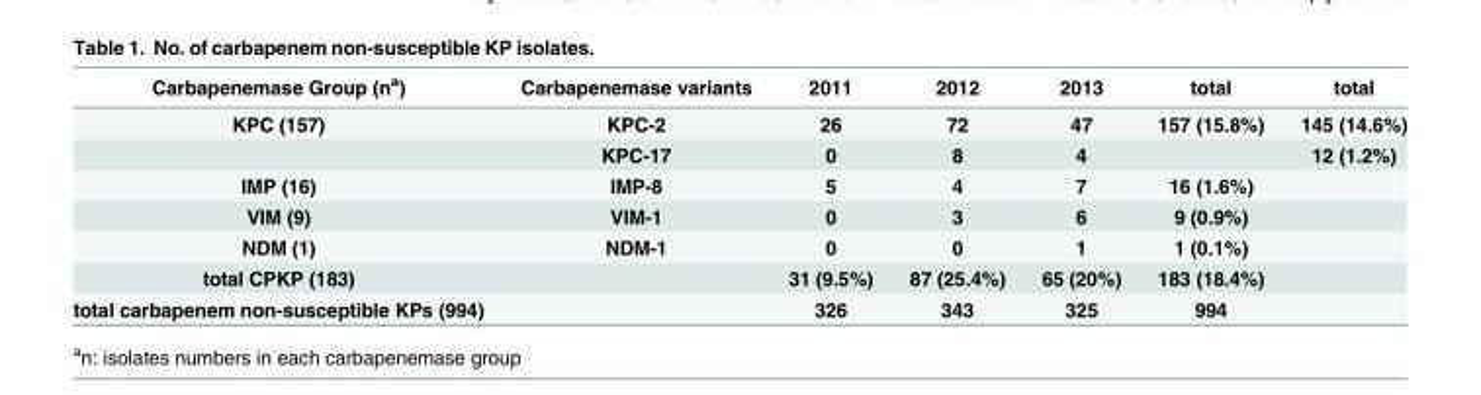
<table><thead><tr><td>Carbapenemase Group (n<sup>a</sup>)</td><td>Carbapenemase variants</td><td>2011</td><td>2012</td><td>2013</td><td>total</td><td>total</td></tr></thead><tbody><tr><td rowspan="2">KPC (157)</td><td>KPC-2</td><td>26</td><td>72</td><td>47</td><td>157 (15.8%)</td><td>145 (14.6%)</td></tr><tr><td>KPC-17</td><td>0</td><td>8</td><td>4</td><td></td><td>12 (1.2%)</td></tr><tr><td>IMP (16)</td><td>IMP-8</td><td>5</td><td>4</td><td>7</td><td>16 (1.6%)</td><td></td></tr><tr><td>VIM (9)</td><td>VIM-1</td><td>0</td><td>3</td><td>6</td><td>9 (0.9%)</td><td></td></tr><tr><td>NDM (1)</td><td>NDM-1</td><td>0</td><td>0</td><td>1</td><td>1 (0.1%)</td><td></td></tr><tr><td>total CPKP (183)</td><td></td><td>31 (9.5%)</td><td>87 (25.4%)</td><td>65 (20%)</td><td>183 (18.4%)</td><td></td></tr><tr><td>total carbapenem non-susceptible KPs (994)</td><td></td><td>326</td><td>343</td><td>325</td><td>994</td><td></td></tr></tbody></table>